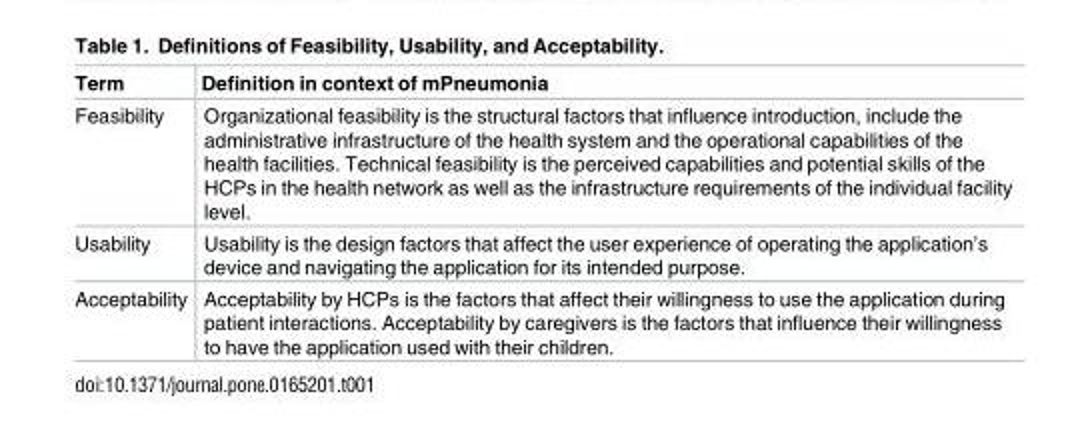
<table><thead><tr><td>Term</td><td>Definition in context of mPneumonia</td></tr></thead><tbody><tr><td>Feasibility</td><td>Organizational feasibility is the structural factors that influence introduction, include the administrative infrastructure of the health system and the operational capabilities of the health facilities. Technical feasibility is the perceived capabilities and potential skills of the HCPs in the health network as well as the infrastructure requirements of the individual facility level.</td></tr><tr><td>Usability</td><td>Usability is the design factors that affect the user experience of operating the application’s device and navigating the application for its intended purpose.</td></tr><tr><td>Acceptability</td><td>Acceptability by HCPs is the factors that affect their willingness to use the application during patient interactions. Acceptability by caregivers is the factors that influence their willingness to have the application used with their children.</td></tr></tbody></table>